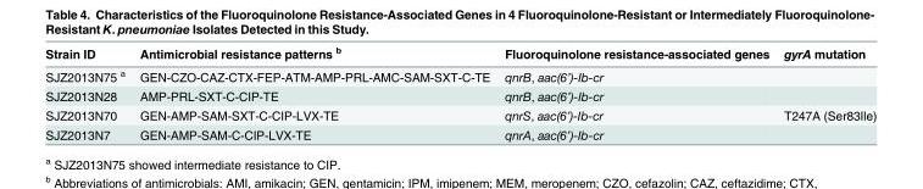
<table><thead><tr><td>Strain ID</td><td>Antimicrobial resistance patterns <sup>b</sup></td><td>Fluoroquinolone resistance-associated genes</td><td>gyrA mutation</td></tr></thead><tbody><tr><td>SJZ2013N75 <sup>a</sup></td><td>GEN-CZO-CAZ-CTX-FEP-ATM-AMP-PRL-AMC-SAM-SXT-C-TE</td><td>qnrB, aac(6’)-Ib-cr</td><td></td></tr><tr><td>SJZ2013N28</td><td>AMP-PRL-SXT-C-CIP-TE</td><td>qnrB, aac(6’)-Ib-cr</td><td></td></tr><tr><td>SJZ2013N70</td><td>GEN-AMP-SAM-SXT-C-CIP-LVX-TE</td><td>qnrS, aac(6’)-Ib-cr</td><td>T247A (Ser83Ile)</td></tr><tr><td>SJZ2013N7</td><td>GEN-AMP-SAM-C-CIP-LVX-TE</td><td>qnrA, aac(6’)-Ib-cr</td><td></td></tr></tbody></table>